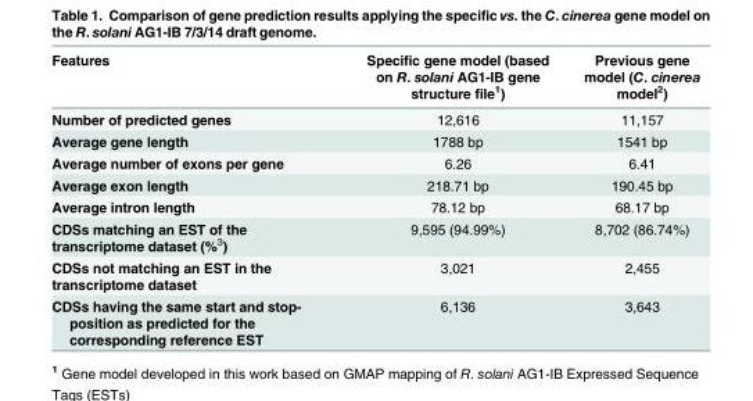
<table><thead><tr><td>Features</td><td>Specific gene model (based on R. solani AG1-IB gene structure file<sup>1</sup>)</td><td>Previous gene model (C. cinerea model<sup>2</sup>)</td></tr></thead><tbody><tr><td>Number of predicted genes</td><td>12,616</td><td>11,157</td></tr><tr><td>Average gene length</td><td>1788 bp</td><td>1541 bp</td></tr><tr><td>Average number of exons per gene</td><td>6.26</td><td>6.41</td></tr><tr><td>Average exon length</td><td>218.71 bp</td><td>190.45 bp</td></tr><tr><td>Average intron length</td><td>78.12 bp</td><td>68.17 bp</td></tr><tr><td>CDSs matching an EST of the transcriptome dataset (%<sup>3</sup>)</td><td>9,595 (94.99%)</td><td>8,702 (86.74%)</td></tr><tr><td>CDSs not matching an EST in the transcriptome dataset</td><td>3,021</td><td>2,455</td></tr><tr><td>CDSs having the same start and stop- position as predicted for the corresponding reference EST</td><td>6,136</td><td>3,643</td></tr></tbody></table>